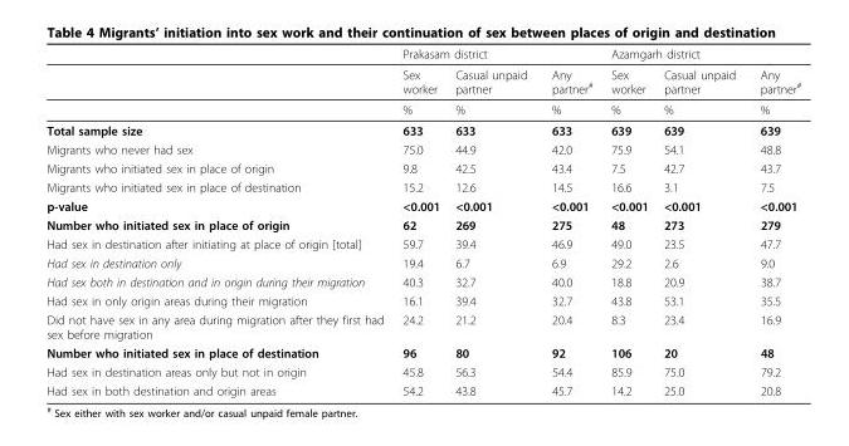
<table><thead><tr><td rowspan="2"></td><td colspan="3">Prakasam district</td><td colspan="3">Azamgarh district</td></tr><tr><td>Sex worker</td><td>Casual unpaid partner</td><td>Any partner<sup>#</sup></td><td>Sex worker</td><td>Casual unpaid partner</td><td>Any partner<sup>#</sup></td></tr></thead><tbody><tr><td></td><td>%</td><td>%</td><td>%</td><td>%</td><td>%</td><td>%</td></tr><tr><td>Total sample size</td><td>633</td><td>633</td><td>633</td><td>639</td><td>639</td><td>639</td></tr><tr><td>Migrants who never had sex</td><td>75.0</td><td>44.9</td><td>42.0</td><td>75.9</td><td>54.1</td><td>48.8</td></tr><tr><td>Migrants who initiated sex in place of origin</td><td>9.8</td><td>42.5</td><td>43.4</td><td>7.5</td><td>42.7</td><td>43.7</td></tr><tr><td>Migrants who initiated sex in place of destination</td><td>15.2</td><td>12.6</td><td>14.5</td><td>16.6</td><td>3.1</td><td>7.5</td></tr><tr><td>p-value</td><td>&lt;0.001</td><td>&lt;0.001</td><td>&lt;0.001</td><td>&lt;0.001</td><td>&lt;0.001</td><td>&lt;0.001</td></tr><tr><td>Number who initiated sex in place of origin</td><td>62</td><td>269</td><td>275</td><td>48</td><td>273</td><td>279</td></tr><tr><td>Had sex in destination after initiating at place of origin [total]</td><td>59.7</td><td>39.4</td><td>46.9</td><td>49.0</td><td>23.5</td><td>47.7</td></tr><tr><td>Had sex in destination only</td><td>19.4</td><td>6.7</td><td>6.9</td><td>29.2</td><td>2.6</td><td>9.0</td></tr><tr><td>Had sex both in destination and in origin during their migration</td><td>40.3</td><td>32.7</td><td>40.0</td><td>18.8</td><td>20.9</td><td>38.7</td></tr><tr><td>Had sex in only origin areas during their migration</td><td>16.1</td><td>39.4</td><td>32.7</td><td>43.8</td><td>53.1</td><td>35.5</td></tr><tr><td>Did not have sex in any area during migration after they first had sex before migration</td><td>24.2</td><td>21.2</td><td>20.4</td><td>8.3</td><td>23.4</td><td>16.9</td></tr><tr><td>Number who initiated sex in place of destination</td><td>96</td><td>80</td><td>92</td><td>106</td><td>20</td><td>48</td></tr><tr><td>Had sex in destination areas only but not in origin</td><td>45.8</td><td>56.3</td><td>54.4</td><td>85.9</td><td>75.0</td><td>79.2</td></tr><tr><td>Had sex in both destination and origin areas</td><td>54.2</td><td>43.8</td><td>45.7</td><td>14.2</td><td>25.0</td><td>20.8</td></tr></tbody></table>